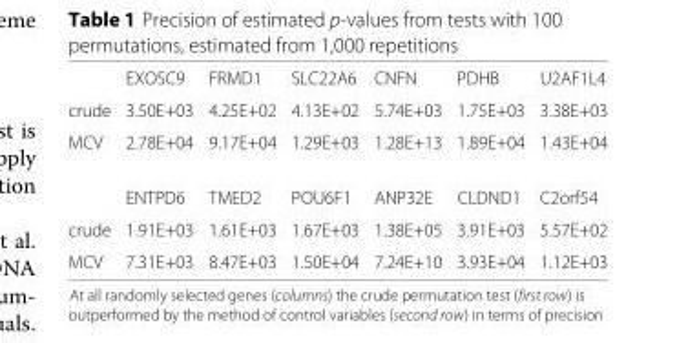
<table><thead><tr><td></td><td>EXOSC9</td><td>FRMD1</td><td>SLC22A6</td><td>CNFN</td><td>PDHB</td><td>U2AF1L4</td></tr></thead><tbody><tr><td>crude</td><td>3.50E+03</td><td>4.25E+02</td><td>4.13E+02</td><td>5.74E+03</td><td>1.75E+03</td><td>3.38E+03</td></tr><tr><td rowspan="2">MCV</td><td>2.78E+04</td><td>9.17E+04</td><td>1.29E+03</td><td>1.28E+13</td><td>1.89E+04</td><td>1.43E+04</td></tr><tr><td>ENTPD6</td><td>TMED2</td><td>POU6F1</td><td>ANP32E</td><td>CLDND1</td><td>C2orf54</td></tr><tr><td>crude</td><td>1.91E+03</td><td>1.61E+03</td><td>1.67E+03</td><td>1.38E+05</td><td>3.91E+03</td><td>5.57E+02</td></tr><tr><td>MCV</td><td>7.31E+03</td><td>8.47E+03</td><td>1.50E+04</td><td>7.24E+10</td><td>3.93E+04</td><td>1.12E+03</td></tr></tbody></table>